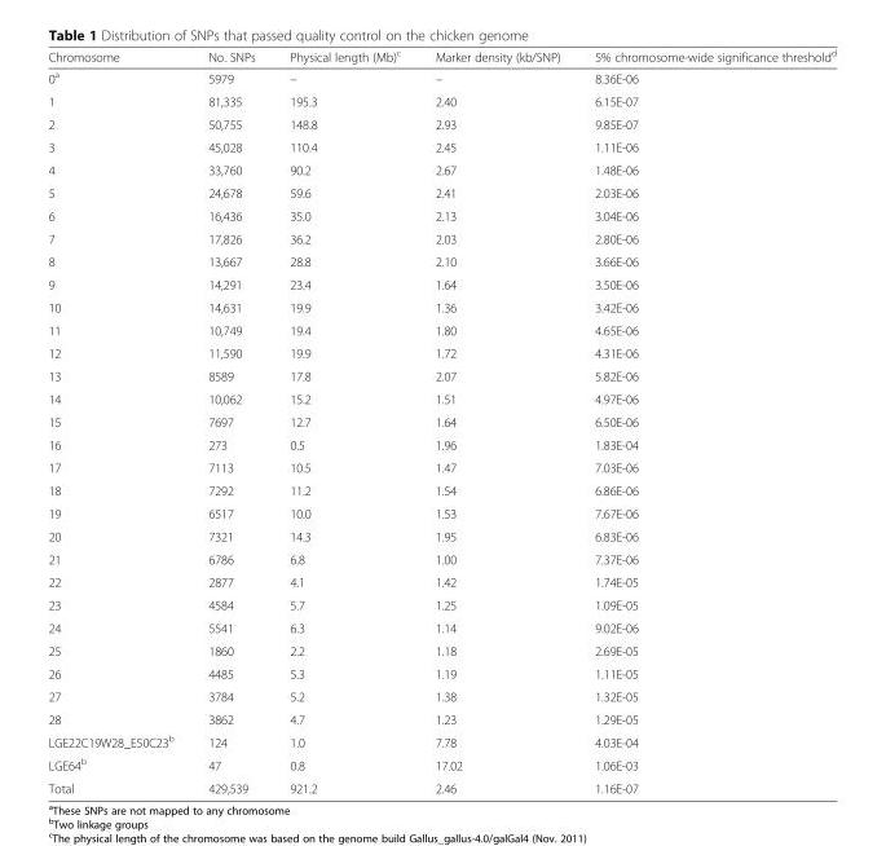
<table><thead><tr><td>Chromosome</td><td>No. SNPs</td><td>Physical length (Mb)<sup>c</sup></td><td>Marker density (kb/SNP)</td><td>5% chromosome-wide significance threshold<sup>d</sup></td></tr></thead><tbody><tr><td>0<sup>a</sup></td><td>5979</td><td>–</td><td>–</td><td>8.36E-06</td></tr><tr><td>1</td><td>81,335</td><td>195.3</td><td>2.40</td><td>6.15E-07</td></tr><tr><td>2</td><td>50,755</td><td>148.8</td><td>2.93</td><td>9.85E-07</td></tr><tr><td>3</td><td>45,028</td><td>110.4</td><td>2.45</td><td>1.11E-06</td></tr><tr><td>4</td><td>33,760</td><td>90.2</td><td>2.67</td><td>1.48E-06</td></tr><tr><td>5</td><td>24,678</td><td>59.6</td><td>2.41</td><td>2.03E-06</td></tr><tr><td>6</td><td>16,436</td><td>35.0</td><td>2.13</td><td>3.04E-06</td></tr><tr><td>7</td><td>17,826</td><td>36.2</td><td>2.03</td><td>2.80E-06</td></tr><tr><td>8</td><td>13,667</td><td>28.8</td><td>2.10</td><td>3.66E-06</td></tr><tr><td>9</td><td>14,291</td><td>23.4</td><td>1.64</td><td>3.50E-06</td></tr><tr><td>10</td><td>14,631</td><td>19.9</td><td>1.36</td><td>3.42E-06</td></tr><tr><td>11</td><td>10,749</td><td>19.4</td><td>1.80</td><td>4.65E-06</td></tr><tr><td>12</td><td>11,590</td><td>19.9</td><td>1.72</td><td>4.31E-06</td></tr><tr><td>13</td><td>8589</td><td>17.8</td><td>2.07</td><td>5.82E-06</td></tr><tr><td>14</td><td>10,062</td><td>15.2</td><td>1.51</td><td>4.97E-06</td></tr><tr><td>15</td><td>7697</td><td>12.7</td><td>1.64</td><td>6.50E-06</td></tr><tr><td>16</td><td>273</td><td>0.5</td><td>1.96</td><td>1.83E-04</td></tr><tr><td>17</td><td>7113</td><td>10.5</td><td>1.47</td><td>7.03E-06</td></tr><tr><td>18</td><td>7292</td><td>11.2</td><td>1.54</td><td>6.86E-06</td></tr><tr><td>19</td><td>6517</td><td>10.0</td><td>1.53</td><td>7.67E-06</td></tr><tr><td>20</td><td>7321</td><td>14.3</td><td>1.95</td><td>6.83E-06</td></tr><tr><td>21</td><td>6786</td><td>6.8</td><td>1.00</td><td>7.37E-06</td></tr><tr><td>22</td><td>2877</td><td>4.1</td><td>1.42</td><td>1.74E-05</td></tr><tr><td>23</td><td>4584</td><td>5.7</td><td>1.25</td><td>1.09E-05</td></tr><tr><td>24</td><td>5541</td><td>6.3</td><td>1.14</td><td>9.02E-06</td></tr><tr><td>25</td><td>1860</td><td>2.2</td><td>1.18</td><td>2.69E-05</td></tr><tr><td>26</td><td>4485</td><td>5.3</td><td>1.19</td><td>1.11E-05</td></tr><tr><td>27</td><td>3784</td><td>5.2</td><td>1.38</td><td>1.32E-05</td></tr><tr><td>28</td><td>3862</td><td>4.7</td><td>1.23</td><td>1.29E-05</td></tr><tr><td>LGE22C19W28_E50C23<sup>b</sup></td><td>124</td><td>1.0</td><td>7.78</td><td>4.03E-04</td></tr><tr><td>LGE64<sup>b</sup></td><td>47</td><td>0.8</td><td>17.02</td><td>1.06E-03</td></tr><tr><td>Total</td><td>429,539</td><td>921.2</td><td>2.46</td><td>1.16E-07</td></tr></tbody></table>